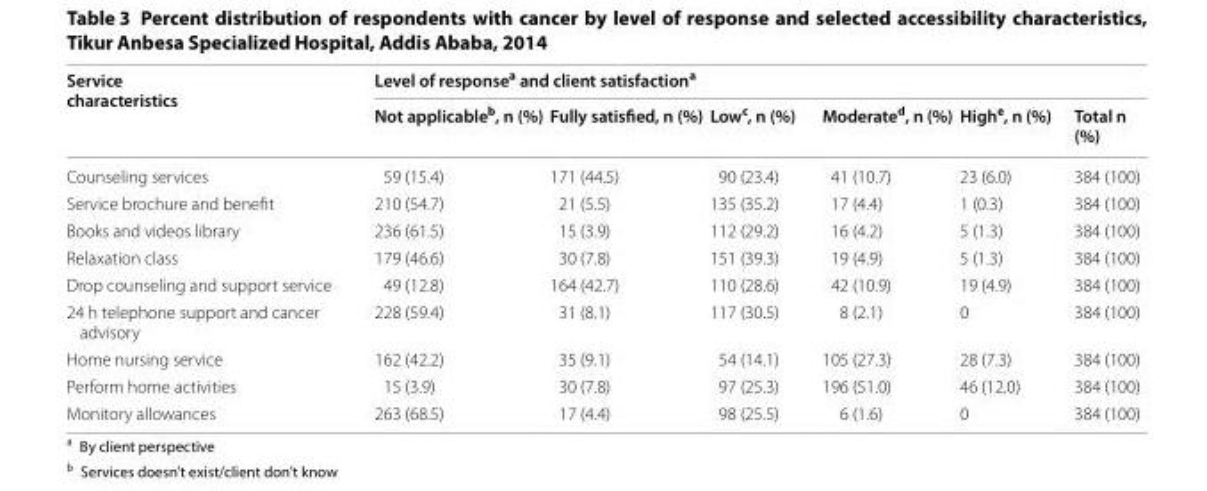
<table><thead><tr><td rowspan="2">Service characteristics</td><td colspan="6">Level of response<sup>a</sup> and client satisfaction<sup>a</sup></td></tr><tr><td>Not applicable<sup>b</sup>, n (%)</td><td>Fully satisfied, n (%)</td><td>Low<sup>c</sup>, n (%)</td><td>Moderate<sup>d</sup>, n (%)</td><td>High<sup>e</sup>, n (%)</td><td>Total n (%)</td></tr></thead><tbody><tr><td>Counseling services</td><td>59 (15.4)</td><td>171 (44.5)</td><td>90 (23.4)</td><td>41 (10.7)</td><td>23 (6.0)</td><td>384 (100)</td></tr><tr><td>Service brochure and benefit</td><td>210 (54.7)</td><td>21 (5.5)</td><td>135 (35.2)</td><td>17 (4.4)</td><td>1 (0.3)</td><td>384 (100)</td></tr><tr><td>Books and videos library</td><td>236 (61.5)</td><td>15 (3.9)</td><td>112 (29.2)</td><td>16 (4.2)</td><td>5 (1.3)</td><td>384 (100)</td></tr><tr><td>Relaxation class</td><td>179 (46.6)</td><td>30 (7.8)</td><td>151 (39.3)</td><td>19 (4.9)</td><td>5 (1.3)</td><td>384 (100)</td></tr><tr><td>Drop counseling and support service</td><td>49 (12.8)</td><td>164 (42.7)</td><td>110 (28.6)</td><td>42 (10.9)</td><td>19 (4.9)</td><td>384 (100)</td></tr><tr><td>24 h telephone support and cancer advisory</td><td>228 (59.4)</td><td>31 (8.1)</td><td>117 (30.5)</td><td>8 (2.1)</td><td>0</td><td>384 (100)</td></tr><tr><td>Home nursing service</td><td>162 (42.2)</td><td>35 (9.1)</td><td>54 (14.1)</td><td>105 (27.3)</td><td>28 (7.3)</td><td>384 (100)</td></tr><tr><td>Perform home activities</td><td>15 (3.9)</td><td>30 (7.8)</td><td>97 (25.3)</td><td>196 (51.0)</td><td>46 (12.0)</td><td>384 (100)</td></tr><tr><td>Monitory allowances</td><td>263 (68.5)</td><td>17 (4.4)</td><td>98 (25.5)</td><td>6 (1.6)</td><td>0</td><td>384 (100)</td></tr></tbody></table>